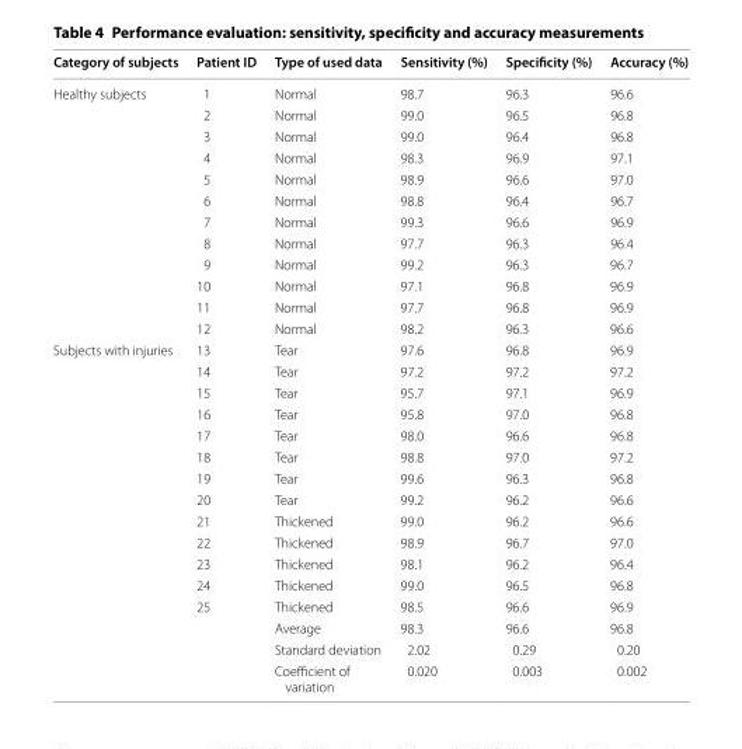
<table><thead><tr><td>Category of subjects</td><td>Patient ID</td><td>Type of used data</td><td>Sensitivity (%)</td><td>Specificity (%)</td><td>Accuracy (%)</td></tr></thead><tbody><tr><td rowspan="12">Healthy subjects</td><td>1</td><td>Normal</td><td>98.7</td><td>96.3</td><td>96.6</td></tr><tr><td>2</td><td>Normal</td><td>99.0</td><td>96.5</td><td>96.8</td></tr><tr><td>3</td><td>Normal</td><td>99.0</td><td>96.4</td><td>96.8</td></tr><tr><td>4</td><td>Normal</td><td>98.3</td><td>96.9</td><td>97.1</td></tr><tr><td>5</td><td>Normal</td><td>98.9</td><td>96.6</td><td>97.0</td></tr><tr><td>6</td><td>Normal</td><td>98.8</td><td>96.4</td><td>96.7</td></tr><tr><td>7</td><td>Normal</td><td>99.3</td><td>96.6</td><td>96.9</td></tr><tr><td>8</td><td>Normal</td><td>97.7</td><td>96.3</td><td>96.4</td></tr><tr><td>9</td><td>Normal</td><td>99.2</td><td>96.3</td><td>96.7</td></tr><tr><td>10</td><td>Normal</td><td>97.1</td><td>96.8</td><td>96.9</td></tr><tr><td>11</td><td>Normal</td><td>97.7</td><td>96.8</td><td>96.9</td></tr><tr><td>12</td><td>Normal</td><td>98.2</td><td>96.3</td><td>96.6</td></tr><tr><td rowspan="13">Subjects with injuries</td><td>13</td><td>Tear</td><td>97.6</td><td>96.8</td><td>96.9</td></tr><tr><td>14</td><td>Tear</td><td>97.2</td><td>97.2</td><td>97.2</td></tr><tr><td>15</td><td>Tear</td><td>95.7</td><td>97.1</td><td>96.9</td></tr><tr><td>16</td><td>Tear</td><td>95.8</td><td>97.0</td><td>96.8</td></tr><tr><td>17</td><td>Tear</td><td>98.0</td><td>96.6</td><td>96.8</td></tr><tr><td>18</td><td>Tear</td><td>98.8</td><td>97.0</td><td>97.2</td></tr><tr><td>19</td><td>Tear</td><td>99.6</td><td>96.3</td><td>96.8</td></tr><tr><td>20</td><td>Tear</td><td>99.2</td><td>96.2</td><td>96.6</td></tr><tr><td>21</td><td>Thickened</td><td>99.0</td><td>96.2</td><td>96.6</td></tr><tr><td>22</td><td>Thickened</td><td>98.9</td><td>96.7</td><td>97.0</td></tr><tr><td>23</td><td>Thickened</td><td>98.1</td><td>96.2</td><td>96.4</td></tr><tr><td>24</td><td>Thickened</td><td>99.0</td><td>96.5</td><td>96.8</td></tr><tr><td>25</td><td>Thickened</td><td>98.5</td><td>96.6</td><td>96.9</td></tr><tr><td rowspan="3" colspan="2"></td><td>Average</td><td>98.3</td><td>96.6</td><td>96.8</td></tr><tr><td>Standard deviation</td><td>2.02</td><td>0.29</td><td>0.20</td></tr><tr><td>Coefficient of variation</td><td>0.020</td><td>0.003</td><td>0.002</td></tr></tbody></table>